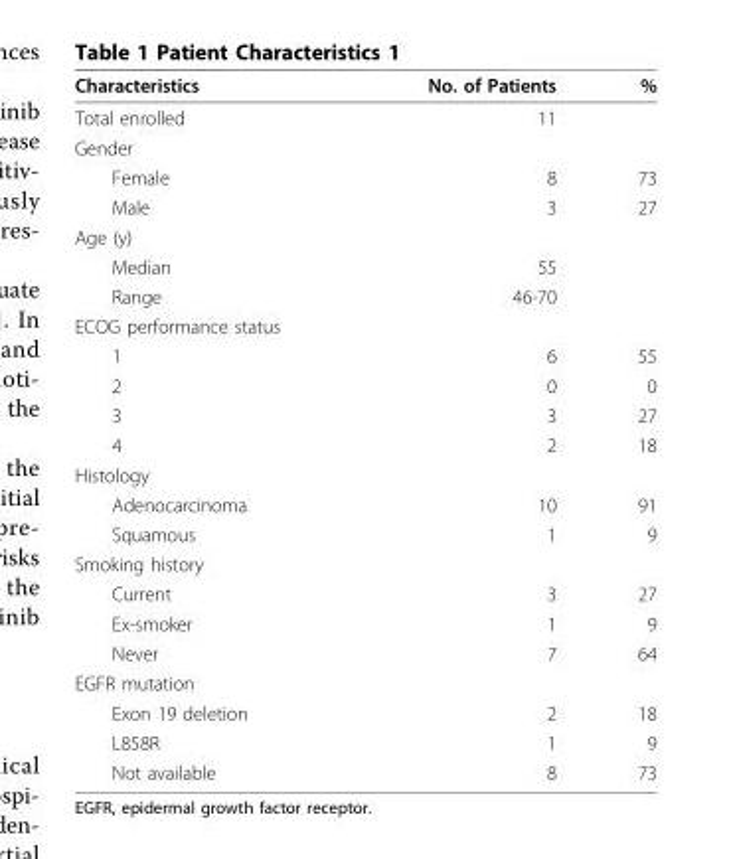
<table><thead><tr><td>Characteristics</td><td>No. of Patients</td><td>%</td></tr></thead><tbody><tr><td>Total enrolled</td><td>11</td><td></td></tr><tr><td colspan="3">Gender</td></tr><tr><td>Female</td><td>8</td><td>73</td></tr><tr><td>Male</td><td>3</td><td>27</td></tr><tr><td colspan="3">Age (y)</td></tr><tr><td>Median</td><td>55</td><td></td></tr><tr><td>Range</td><td>46-70</td><td></td></tr><tr><td colspan="3">ECOG performance status</td></tr><tr><td>1</td><td>6</td><td>55</td></tr><tr><td>2</td><td>0</td><td>0</td></tr><tr><td>3</td><td>3</td><td>27</td></tr><tr><td>4</td><td>2</td><td>18</td></tr><tr><td colspan="3">Histology</td></tr><tr><td>Adenocarcinoma</td><td>10</td><td>91</td></tr><tr><td>Squamous</td><td>1</td><td>9</td></tr><tr><td colspan="3">Smoking history</td></tr><tr><td>Current</td><td>3</td><td>27</td></tr><tr><td>Ex-smoker</td><td>1</td><td>9</td></tr><tr><td>Never</td><td>7</td><td>64</td></tr><tr><td colspan="3">EGFR mutation</td></tr><tr><td>Exon 19 deletion</td><td>2</td><td>18</td></tr><tr><td>L858R</td><td>1</td><td>9</td></tr><tr><td>Not available</td><td>8</td><td>73</td></tr></tbody></table>